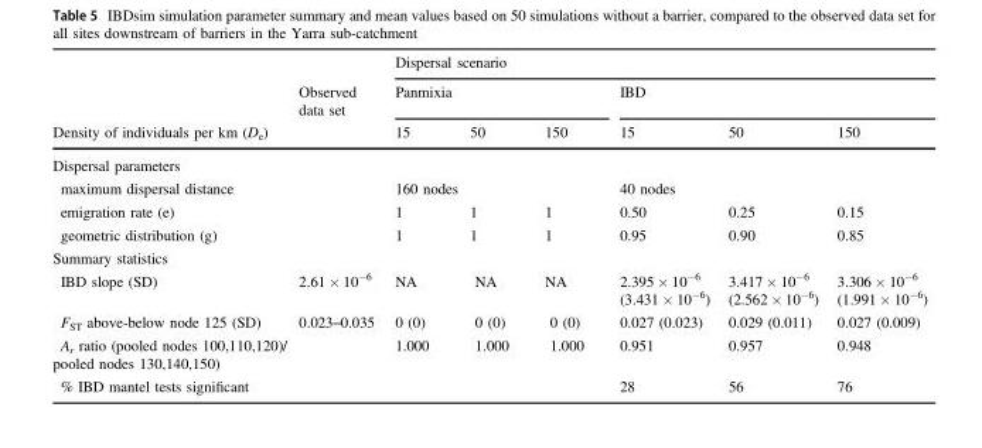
<table><thead><tr><td rowspan="3">Density of individuals per km (D<sub>e</sub>)</td><td rowspan="3">Observed data set</td><td colspan="6">Dispersal scenario</td></tr><tr><td colspan="3">Panmixia</td><td colspan="3">IBD</td></tr><tr><td>15</td><td>50</td><td>150</td><td>15</td><td>50</td><td>150</td></tr></thead><tbody><tr><td colspan="8">Dispersal parameters</td></tr><tr><td>maximum dispersal distance</td><td></td><td>160 nodes</td><td></td><td></td><td>40 nodes</td><td></td><td></td></tr><tr><td>emigration rate (e)</td><td></td><td>1</td><td>1</td><td>1</td><td>0.50</td><td>0.25</td><td>0.15</td></tr><tr><td>geometric distribution (g)</td><td></td><td>1</td><td>1</td><td>1</td><td>0.95</td><td>0.90</td><td>0.85</td></tr><tr><td colspan="8">Summary statistics</td></tr><tr><td>IBD slope (SD)</td><td>2.61 × 10<sup>−6</sup></td><td>NA</td><td>NA</td><td>NA</td><td>2.395 × 10<sup>−6</sup> (3.431 × 10<sup>−6</sup>)</td><td>3.417 × 10<sup>−6</sup> (2.562 × 10<sup>−6</sup>)</td><td>3.306 × 10<sup>−6</sup> (1.991 × 10<sup>−6</sup>)</td></tr><tr><td>F<sub>ST</sub> above-below node 125 (SD)</td><td>0.023–0.035</td><td>0 (0)</td><td>0 (0)</td><td>0 (0)</td><td>0.027 (0.023)</td><td>0.029 (0.011)</td><td>0.027 (0.009)</td></tr><tr><td>A<sub>r</sub> ratio (pooled nodes 100,110,120)/ pooled nodes 130,140,150)</td><td></td><td>1.000</td><td>1.000</td><td>1.000</td><td>0.951</td><td>0.957</td><td>0.948</td></tr><tr><td>% IBD mantel tests significant</td><td></td><td></td><td></td><td></td><td>28</td><td>56</td><td>76</td></tr></tbody></table>